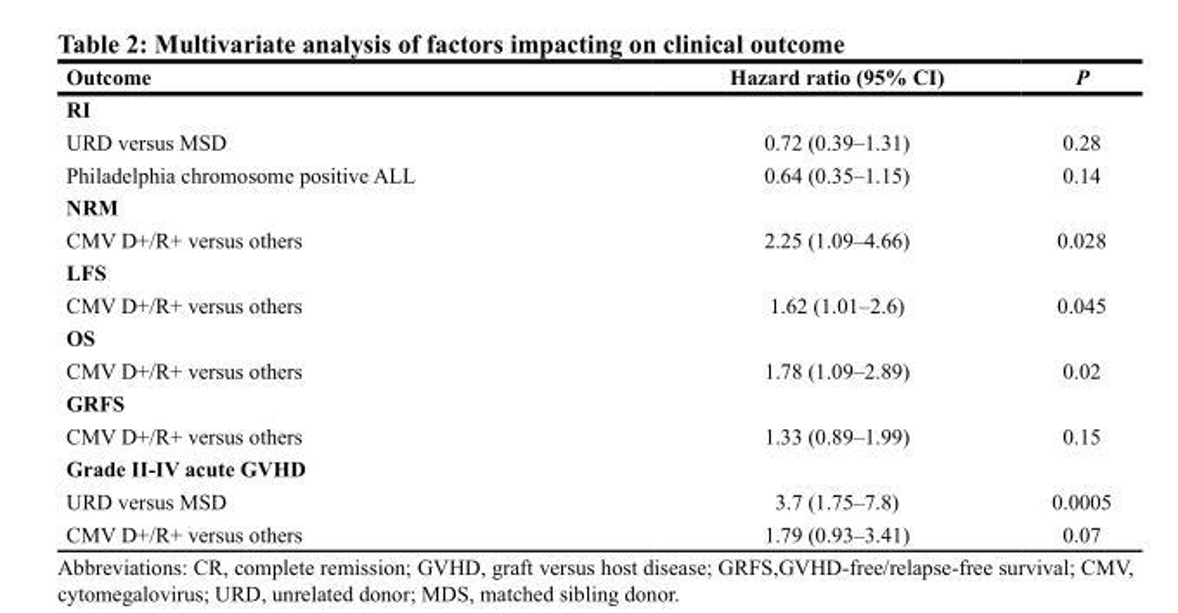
<table><thead><tr><td>Outcome</td><td>Hazard ratio (95% CI)</td><td>P</td></tr></thead><tbody><tr><td colspan="3">RI</td></tr><tr><td>URD versus MSD</td><td>0.72 (0.39–1.31)</td><td>0.28</td></tr><tr><td>Philadelphia chromosome positive ALL</td><td>0.64 (0.35–1.15)</td><td>0.14</td></tr><tr><td colspan="3">NRM</td></tr><tr><td>CMV D+/R+ versus others</td><td>2.25 (1.09–4.66)</td><td>0.028</td></tr><tr><td colspan="3">LFS</td></tr><tr><td>CMV D+/R+ versus others</td><td>1.62 (1.01–2.6)</td><td>0.045</td></tr><tr><td colspan="3">OS</td></tr><tr><td>CMV D+/R+ versus others</td><td>1.78 (1.09–2.89)</td><td>0.02</td></tr><tr><td colspan="3">GRFS</td></tr><tr><td>CMV D+/R+ versus others</td><td>1.33 (0.89–1.99)</td><td>0.15</td></tr><tr><td colspan="3">Grade II-IV acute GVHD</td></tr><tr><td>URD versus MSD</td><td>3.7 (1.75–7.8)</td><td>0.0005</td></tr><tr><td>CMV D+/R+ versus others</td><td>1.79 (0.93–3.41)</td><td>0.07</td></tr></tbody></table>